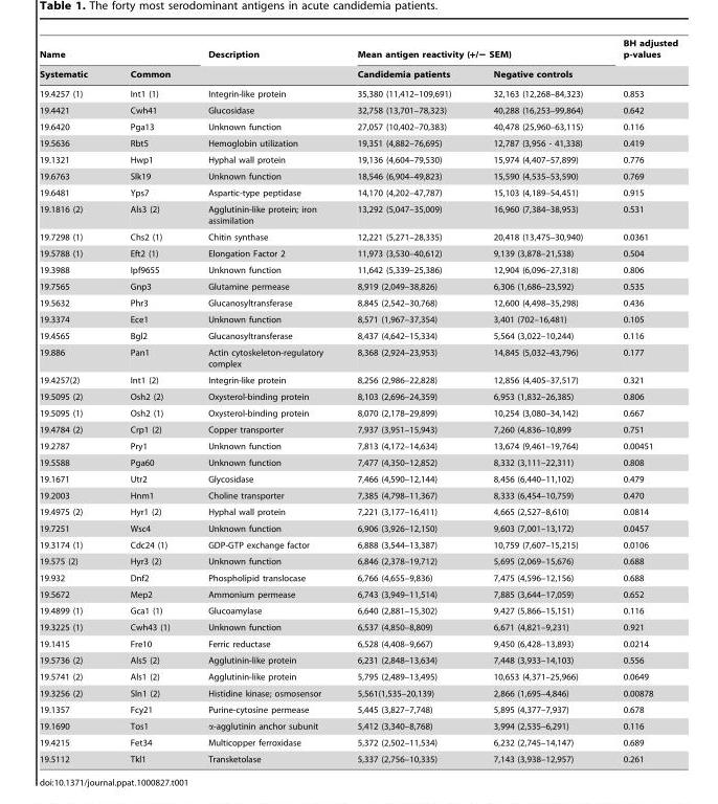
<table><thead><tr><td colspan="2">Name</td><td rowspan="2">Description</td><td colspan="2">Mean antigen reactivity (+/− SEM)</td><td rowspan="2">BH adjusted p-values</td></tr><tr><td>Systematic</td><td>Common</td><td>Candidemia patients</td><td>Negative controls</td></tr></thead><tbody><tr><td>19.4257 (1)</td><td>Int1 (1)</td><td>Integrin-like protein</td><td>35,380 (11,412–109,691)</td><td>32,163 (12,268–84,323)</td><td>0.853</td></tr><tr><td>19.4421</td><td>Cwh41</td><td>Glucosidase</td><td>32,758 (13,701–78,323)</td><td>40,288 (16,253–99,864)</td><td>0.642</td></tr><tr><td>19.6420</td><td>Pga13</td><td>Unknown function</td><td>27,057 (10,402–70,383)</td><td>40,478 (25,960–63,115)</td><td>0.116</td></tr><tr><td>19.5636</td><td>Rbt5</td><td>Hemoglobin utilization</td><td>19,351 (4,882–76,695)</td><td>12,787 (3,956 - 41,338)</td><td>0.419</td></tr><tr><td>19.1321</td><td>Hwp1</td><td>Hyphal wall protein</td><td>19,136 (4,604–79,530)</td><td>15,974 (4,407–57,899)</td><td>0.776</td></tr><tr><td>19.6763</td><td>Slk19</td><td>Unknown function</td><td>18,546 (6,904–49,823)</td><td>15,590 (4,535–53,590)</td><td>0.769</td></tr><tr><td>19.6481</td><td>Yps7</td><td>Aspartic-type peptidase</td><td>14,170 (4,202–47,787)</td><td>15,103 (4,189–54,451)</td><td>0.915</td></tr><tr><td>19.1816 (2)</td><td>Als3 (2)</td><td>Agglutinin-like protein; iron assimilation</td><td>13,292 (5,047–35,009)</td><td>16,960 (7,384–38,953)</td><td>0.531</td></tr><tr><td>19.7298 (1)</td><td>Chs2 (1)</td><td>Chitin synthase</td><td>12,221 (5,271–28,335)</td><td>20,418 (13,475–30,940)</td><td>0.0361</td></tr><tr><td>19.5788 (1)</td><td>Eft2 (1)</td><td>Elongation Factor 2</td><td>11,973 (3,530–40,612)</td><td>9,139 (3,878–21,538)</td><td>0.504</td></tr><tr><td>19.3988</td><td>Ipf9655</td><td>Unknown function</td><td>11,642 (5,339–25,386)</td><td>12,904 (6,096–27,318)</td><td>0.806</td></tr><tr><td>19.7565</td><td>Gnp3</td><td>Glutamine permease</td><td>8,919 (2,049–38,826)</td><td>6,306 (1,686–23,592)</td><td>0.535</td></tr><tr><td>19.5632</td><td>Phr3</td><td>Glucanosyltransferase</td><td>8,845 (2,542–30,768)</td><td>12,600 (4,498–35,298)</td><td>0.436</td></tr><tr><td>19.3374</td><td>Ece1</td><td>Unknown function</td><td>8,571 (1,967–37,354)</td><td>3,401 (702–16,481)</td><td>0.105</td></tr><tr><td>19.4565</td><td>Bgl2</td><td>Glucanosyltransferase</td><td>8,437 (4,642–15,334)</td><td>5,564 (3,022–10,244)</td><td>0.116</td></tr><tr><td>19.886</td><td>Pan1</td><td>Actin cytoskeleton-regulatory complex</td><td>8,368 (2,924–23,953)</td><td>14,845 (5,032–43,796)</td><td>0.177</td></tr><tr><td>19.4257(2)</td><td>Int1 (2)</td><td>Integrin-like protein</td><td>8,256 (2,986–22,828)</td><td>12,856 (4,405–37,517)</td><td>0.321</td></tr><tr><td>19.5095 (2)</td><td>Osh2 (2)</td><td>Oxysterol-binding protein</td><td>8,103 (2,696–24,359)</td><td>6,953 (1,832–26,385)</td><td>0.806</td></tr><tr><td>19.5095 (1)</td><td>Osh2 (1)</td><td>Oxysterol-binding protein</td><td>8,070 (2,178–29,899)</td><td>10,254 (3,080–34,142)</td><td>0.667</td></tr><tr><td>19.4784 (2)</td><td>Crp1 (2)</td><td>Copper transporter</td><td>7,937 (3,951–15,943)</td><td>7,260 (4,836–10,899</td><td>0.751</td></tr><tr><td>19.2787</td><td>Pry1</td><td>Unknown function</td><td>7,813 (4,172–14,634)</td><td>13,674 (9,461–19,764)</td><td>0.00451</td></tr><tr><td>19.5588</td><td>Pga60</td><td>Unknown function</td><td>7,477 (4,350–12,852)</td><td>8,332 (3,111–22,311)</td><td>0.808</td></tr><tr><td>19.1671</td><td>Utr2</td><td>Glycosidase</td><td>7,466 (4,590–12,144)</td><td>8,456 (6,440–11,102)</td><td>0.479</td></tr><tr><td>19.2003</td><td>Hnm1</td><td>Choline transporter</td><td>7,385 (4,798–11,367)</td><td>8,333 (6,454–10,759)</td><td>0.470</td></tr><tr><td>19.4975 (2)</td><td>Hyr1 (2)</td><td>Hyphal wall protein</td><td>7,221 (3,177–16,411)</td><td>4,665 (2,527–8,610)</td><td>0.0814</td></tr><tr><td>19.7251</td><td>Wsc4</td><td>Unknown function</td><td>6,906 (3,926–12,150)</td><td>9,603 (7,001–13,172)</td><td>0.0457</td></tr><tr><td>19.3174 (1)</td><td>Cdc24 (1)</td><td>GDP-GTP exchange factor</td><td>6,888 (3,544–13,387)</td><td>10,759 (7,607–15,215)</td><td>0.0106</td></tr><tr><td>19.575 (2)</td><td>Hyr3 (2)</td><td>Unknown function</td><td>6,846 (2,378–19,712)</td><td>5,695 (2,069–15,676)</td><td>0.688</td></tr><tr><td>19.932</td><td>Dnf2</td><td>Phospholipid translocase</td><td>6,766 (4,655–9,836)</td><td>7,475 (4,596–12,156)</td><td>0.688</td></tr><tr><td>19.5672</td><td>Mep2</td><td>Ammonium permease</td><td>6,743 (3,949–11,514)</td><td>7,885 (3,644–17,059)</td><td>0.652</td></tr><tr><td>19.4899 (1)</td><td>Gca1 (1)</td><td>Glucoamylase</td><td>6,640 (2,881–15,302)</td><td>9,427 (5,866–15,151)</td><td>0.116</td></tr><tr><td>19.3225 (1)</td><td>Cwh43 (1)</td><td>Unknown function</td><td>6,537 (4,850–8,809)</td><td>6,671 (4,821–9,231)</td><td>0.921</td></tr><tr><td>19.1415</td><td>Fre10</td><td>Ferric reductase</td><td>6,528 (4,408–9,667)</td><td>9,450 (6,428–13,893)</td><td>0.0214</td></tr><tr><td>19.5736 (2)</td><td>Als5 (2)</td><td>Agglutinin-like protein</td><td>6,231 (2,848–13,634)</td><td>7,448 (3,933–14,103)</td><td>0.556</td></tr><tr><td>19.5741 (2)</td><td>Als1 (2)</td><td>Agglutinin-like protein</td><td>5,795 (2,489–13,495)</td><td>10,653 (4,371–25,966)</td><td>0.0649</td></tr><tr><td>19.3256 (2)</td><td>Sln1 (2)</td><td>Histidine kinase; osmosensor</td><td>5,561(1,535–20,139)</td><td>2,866 (1,695–4,846)</td><td>0.00878</td></tr><tr><td>19.1357</td><td>Fcy21</td><td>Purine-cytosine permease</td><td>5,445 (3,827–7,748)</td><td>5,895 (4,377–7,937)</td><td>0.678</td></tr><tr><td>19.1690</td><td>Tos1</td><td>α-agglutinin anchor subunit</td><td>5,412 (3,340–8,768)</td><td>3,994 (2,535–6,291)</td><td>0.116</td></tr><tr><td>19.4215</td><td>Fet34</td><td>Multicopper ferroxidase</td><td>5,372 (2,502–11,534)</td><td>6,232 (2,745–14,147)</td><td>0.689</td></tr><tr><td>19.5112</td><td>Tkl1</td><td>Transketolase</td><td>5,337 (2,756–10,335)</td><td>7,143 (3,938–12,957)</td><td>0.261</td></tr></tbody></table>